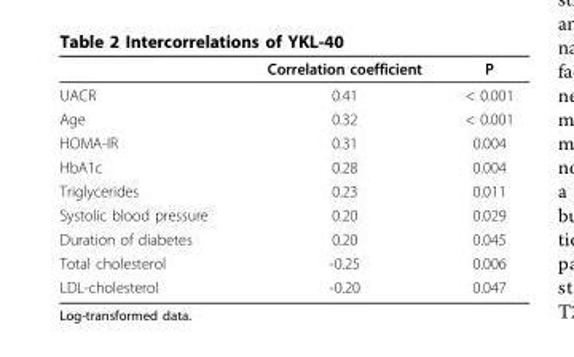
<table><thead><tr><td></td><td>Correlation coefficient</td><td>P</td></tr></thead><tbody><tr><td>UACR</td><td>0.41</td><td>&lt; 0.001</td></tr><tr><td>Age</td><td>0.32</td><td>&lt; 0.001</td></tr><tr><td>HOMA-IR</td><td>0.31</td><td>0.004</td></tr><tr><td>HbA1c</td><td>0.28</td><td>0.004</td></tr><tr><td>Triglycerides</td><td>0.23</td><td>0.011</td></tr><tr><td>Systolic blood pressure</td><td>0.20</td><td>0.029</td></tr><tr><td>Duration of diabetes</td><td>0.20</td><td>0.045</td></tr><tr><td>Total cholesterol</td><td>-0.25</td><td>0.006</td></tr><tr><td>LDL-cholesterol</td><td>-0.20</td><td>0.047</td></tr></tbody></table>